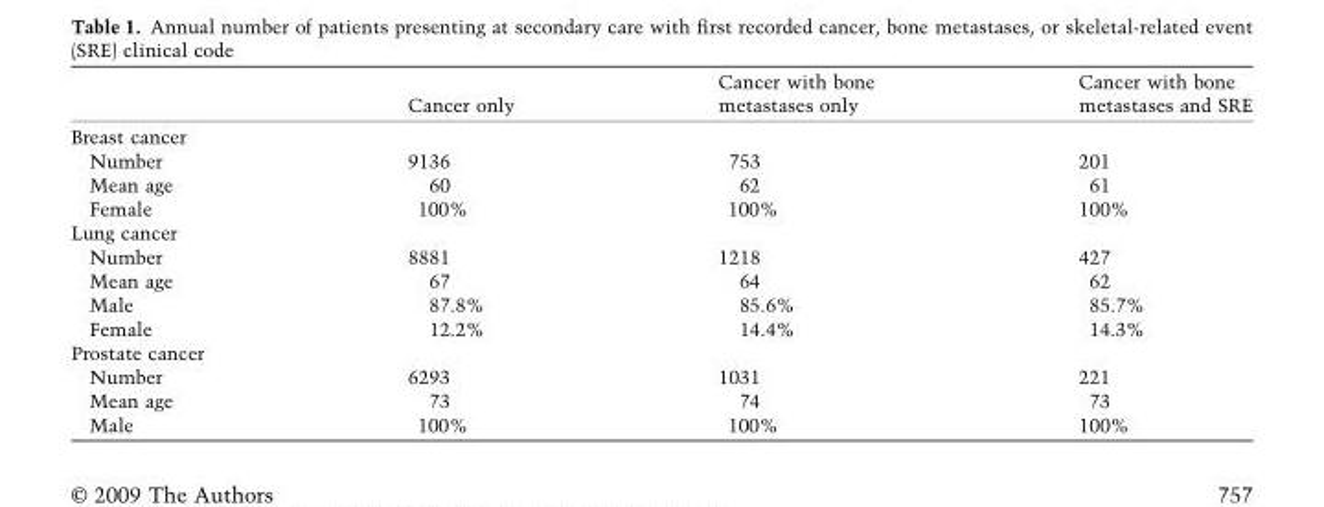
<table><thead><tr><td></td><td>Cancer only</td><td>Cancer with bone metastases only</td><td>Cancer with bone metastases and SRE</td></tr></thead><tbody><tr><td colspan="4">Breast cancer</td></tr><tr><td>Number</td><td>9136</td><td>753</td><td>201</td></tr><tr><td>Mean age</td><td>60</td><td>62</td><td>61</td></tr><tr><td>Female</td><td>100%</td><td>100%</td><td>100%</td></tr><tr><td colspan="4">Lung cancer</td></tr><tr><td>Number</td><td>8881</td><td>1218</td><td>427</td></tr><tr><td>Mean age</td><td>67</td><td>64</td><td>62</td></tr><tr><td>Male</td><td>87.8%</td><td>85.6%</td><td>85.7%</td></tr><tr><td>Female</td><td>12.2%</td><td>14.4%</td><td>14.3%</td></tr><tr><td colspan="4">Prostate cancer</td></tr><tr><td>Number</td><td>6293</td><td>1031</td><td>221</td></tr><tr><td>Mean age</td><td>73</td><td>74</td><td>73</td></tr><tr><td>Male</td><td>100%</td><td>100%</td><td>100%</td></tr></tbody></table>